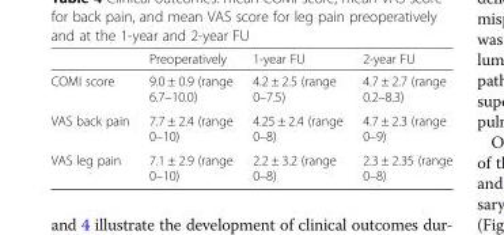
<table><thead><tr><td></td><td>Preoperatively</td><td>1-year FU</td><td>2-year FU</td></tr></thead><tbody><tr><td>COMI score</td><td>9.0 ± 0.9 (range 6.7–10.0)</td><td>4.2 ± 2.5 (range 0–7.5)</td><td>4.7 ± 2.7 (range 0.2–8.3)</td></tr><tr><td>VAS back pain</td><td>7.7 ± 2.4 (range 0–10)</td><td>4.25 ± 2.4 (range 0–8)</td><td>4.7 ± 2.3 (range 0–9)</td></tr><tr><td>VAS leg pain</td><td>7.1 ± 2.9 (range 0–10)</td><td>2.2 ± 3.2 (range 0–8)</td><td>2.3 ± 2.35 (range 0–8)</td></tr></tbody></table>